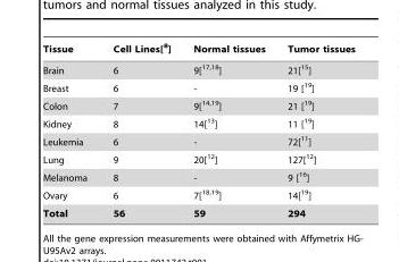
<table><thead><tr><td>Tissue</td><td>Cell Lines[<sup>8</sup>]</td><td>Normal tissues</td><td>Tumor tissues</td></tr></thead><tbody><tr><td>Brain</td><td>6</td><td>9[17,18]</td><td>21[<sup>15</sup>]</td></tr><tr><td>Breast</td><td>6</td><td>-</td><td>19 [<sup>19</sup>]</td></tr><tr><td>Colon</td><td>7</td><td>9[14,19]</td><td>21 [<sup>19</sup>]</td></tr><tr><td>Kidney</td><td>8</td><td>14[<sup>13</sup>]</td><td>11 [<sup>19</sup>]</td></tr><tr><td>Leukemia</td><td>6</td><td>-</td><td>72[<sup>11</sup>]</td></tr><tr><td>Lung</td><td>9</td><td>20[<sup>12</sup>]</td><td>127[<sup>12</sup>]</td></tr><tr><td>Melanoma</td><td>8</td><td>-</td><td>9 [<sup>16</sup>]</td></tr><tr><td>Ovary</td><td>6</td><td>7[18,19]</td><td>14[<sup>19</sup>]</td></tr><tr><td>Total</td><td>56</td><td>59</td><td>294</td></tr></tbody></table>